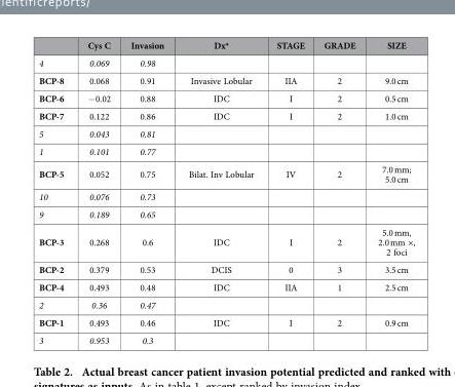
<table><thead><tr><td></td><td>Cys C</td><td>Invasion</td><td>Dx*</td><td>STAGE</td><td>GRADE</td><td>SIZE</td></tr></thead><tbody><tr><td>4</td><td>0.069</td><td>0.98</td><td></td><td></td><td></td><td></td></tr><tr><td>BCP-8</td><td>0.068</td><td>0.91</td><td>Invasive Lobular</td><td>IIA</td><td>2</td><td>9.0 cm</td></tr><tr><td>BCP-6</td><td>− 0.02</td><td>0.88</td><td>IDC</td><td>I</td><td>2</td><td>0.5 cm</td></tr><tr><td>BCP-7</td><td>0.122</td><td>0.86</td><td>IDC</td><td>I</td><td>2</td><td>1.0 cm</td></tr><tr><td>5</td><td>0.043</td><td>0.81</td><td></td><td></td><td></td><td></td></tr><tr><td>1</td><td>0.101</td><td>0.77</td><td></td><td></td><td></td><td></td></tr><tr><td>BCP-5</td><td>0.052</td><td>0.75</td><td>Bilat. Inv Lobular</td><td>IV</td><td>2</td><td>7.0 mm; 5.0 cm</td></tr><tr><td>10</td><td>0.076</td><td>0.73</td><td></td><td></td><td></td><td></td></tr><tr><td>9</td><td>0.189</td><td>0.65</td><td></td><td></td><td></td><td></td></tr><tr><td>BCP-3</td><td>0.268</td><td>0.6</td><td>IDC</td><td>I</td><td>2</td><td>5.0 mm, 2.0 mm ×, 2 foci</td></tr><tr><td>BCP-2</td><td>0.379</td><td>0.53</td><td>DCIS</td><td>0</td><td>3</td><td>3.5 cm</td></tr><tr><td>BCP-4</td><td>0.493</td><td>0.48</td><td>IDC</td><td>IIA</td><td>1</td><td>2.5 cm</td></tr><tr><td>2</td><td>0.36</td><td>0.47</td><td></td><td></td><td></td><td></td></tr><tr><td>BCP-1</td><td>0.493</td><td>0.46</td><td>IDC</td><td>I</td><td>2</td><td>0.9 cm</td></tr><tr><td>3</td><td>0.953</td><td>0.3</td><td></td><td></td><td></td><td></td></tr></tbody></table>